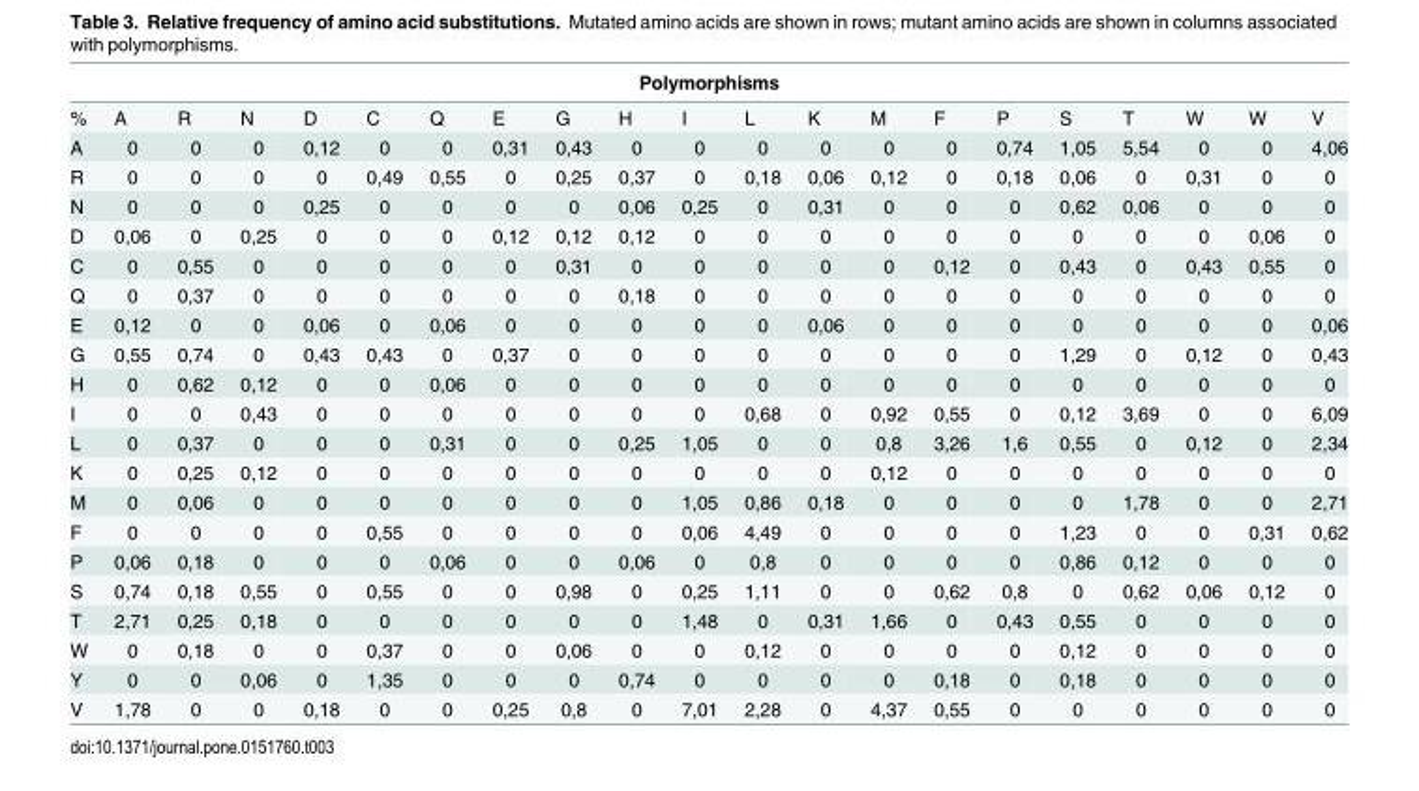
<table><thead><tr><td colspan="21">Polymorphisms</td></tr><tr><td>%</td><td>A</td><td>R</td><td>N</td><td>D</td><td>C</td><td>Q</td><td>E</td><td>G</td><td>H</td><td>I</td><td>L</td><td>K</td><td>M</td><td>F</td><td>P</td><td>S</td><td>T</td><td>W</td><td>W</td><td>V</td></tr></thead><tbody><tr><td>A</td><td>0</td><td>0</td><td>0</td><td>0,12</td><td>0</td><td>0</td><td>0,31</td><td>0,43</td><td>0</td><td>0</td><td>0</td><td>0</td><td>0</td><td>0</td><td>0,74</td><td>1,05</td><td>5,54</td><td>0</td><td>0</td><td>4,06</td></tr><tr><td>R</td><td>0</td><td>0</td><td>0</td><td>0</td><td>0,49</td><td>0,55</td><td>0</td><td>0,25</td><td>0,37</td><td>0</td><td>0,18</td><td>0,06</td><td>0,12</td><td>0</td><td>0,18</td><td>0,06</td><td>0</td><td>0,31</td><td>0</td><td>0</td></tr><tr><td>N</td><td>0</td><td>0</td><td>0</td><td>0,25</td><td>0</td><td>0</td><td>0</td><td>0</td><td>0,06</td><td>0,25</td><td>0</td><td>0,31</td><td>0</td><td>0</td><td>0</td><td>0,62</td><td>0,06</td><td>0</td><td>0</td><td>0</td></tr><tr><td>D</td><td>0,06</td><td>0</td><td>0,25</td><td>0</td><td>0</td><td>0</td><td>0,12</td><td>0,12</td><td>0,12</td><td>0</td><td>0</td><td>0</td><td>0</td><td>0</td><td>0</td><td>0</td><td>0</td><td>0</td><td>0,06</td><td>0</td></tr><tr><td>C</td><td>0</td><td>0,55</td><td>0</td><td>0</td><td>0</td><td>0</td><td>0</td><td>0,31</td><td>0</td><td>0</td><td>0</td><td>0</td><td>0</td><td>0,12</td><td>0</td><td>0,43</td><td>0</td><td>0,43</td><td>0,55</td><td>0</td></tr><tr><td>Q</td><td>0</td><td>0,37</td><td>0</td><td>0</td><td>0</td><td>0</td><td>0</td><td>0</td><td>0,18</td><td>0</td><td>0</td><td>0</td><td>0</td><td>0</td><td>0</td><td>0</td><td>0</td><td>0</td><td>0</td><td>0</td></tr><tr><td>E</td><td>0,12</td><td>0</td><td>0</td><td>0,06</td><td>0</td><td>0,06</td><td>0</td><td>0</td><td>0</td><td>0</td><td>0</td><td>0,06</td><td>0</td><td>0</td><td>0</td><td>0</td><td>0</td><td>0</td><td>0</td><td>0,06</td></tr><tr><td>G</td><td>0,55</td><td>0,74</td><td>0</td><td>0,43</td><td>0,43</td><td>0</td><td>0,37</td><td>0</td><td>0</td><td>0</td><td>0</td><td>0</td><td>0</td><td>0</td><td>0</td><td>1,29</td><td>0</td><td>0,12</td><td>0</td><td>0,43</td></tr><tr><td>H</td><td>0</td><td>0,62</td><td>0,12</td><td>0</td><td>0</td><td>0,06</td><td>0</td><td>0</td><td>0</td><td>0</td><td>0</td><td>0</td><td>0</td><td>0</td><td>0</td><td>0</td><td>0</td><td>0</td><td>0</td><td>0</td></tr><tr><td>I</td><td>0</td><td>0</td><td>0,43</td><td>0</td><td>0</td><td>0</td><td>0</td><td>0</td><td>0</td><td>0</td><td>0,68</td><td>0</td><td>0,92</td><td>0,55</td><td>0</td><td>0,12</td><td>3,69</td><td>0</td><td>0</td><td>6,09</td></tr><tr><td>L</td><td>0</td><td>0,37</td><td>0</td><td>0</td><td>0</td><td>0,31</td><td>0</td><td>0</td><td>0,25</td><td>1,05</td><td>0</td><td>0</td><td>0,8</td><td>3,26</td><td>1,6</td><td>0,55</td><td>0</td><td>0,12</td><td>0</td><td>2,34</td></tr><tr><td>K</td><td>0</td><td>0,25</td><td>0,12</td><td>0</td><td>0</td><td>0</td><td>0</td><td>0</td><td>0</td><td>0</td><td>0</td><td>0</td><td>0,12</td><td>0</td><td>0</td><td>0</td><td>0</td><td>0</td><td>0</td><td>0</td></tr><tr><td>M</td><td>0</td><td>0,06</td><td>0</td><td>0</td><td>0</td><td>0</td><td>0</td><td>0</td><td>0</td><td>1,05</td><td>0,86</td><td>0,18</td><td>0</td><td>0</td><td>0</td><td>0</td><td>1,78</td><td>0</td><td>0</td><td>2,71</td></tr><tr><td>F</td><td>0</td><td>0</td><td>0</td><td>0</td><td>0,55</td><td>0</td><td>0</td><td>0</td><td>0</td><td>0,06</td><td>4,49</td><td>0</td><td>0</td><td>0</td><td>0</td><td>1,23</td><td>0</td><td>0</td><td>0,31</td><td>0,62</td></tr><tr><td>P</td><td>0,06</td><td>0,18</td><td>0</td><td>0</td><td>0</td><td>0,06</td><td>0</td><td>0</td><td>0,06</td><td>0</td><td>0,8</td><td>0</td><td>0</td><td>0</td><td>0</td><td>0,86</td><td>0,12</td><td>0</td><td>0</td><td>0</td></tr><tr><td>S</td><td>0,74</td><td>0,18</td><td>0,55</td><td>0</td><td>0,55</td><td>0</td><td>0</td><td>0,98</td><td>0</td><td>0,25</td><td>1,11</td><td>0</td><td>0</td><td>0,62</td><td>0,8</td><td>0</td><td>0,62</td><td>0,06</td><td>0,12</td><td>0</td></tr><tr><td>T</td><td>2,71</td><td>0,25</td><td>0,18</td><td>0</td><td>0</td><td>0</td><td>0</td><td>0</td><td>0</td><td>1,48</td><td>0</td><td>0,31</td><td>1,66</td><td>0</td><td>0,43</td><td>0,55</td><td>0</td><td>0</td><td>0</td><td>0</td></tr><tr><td>W</td><td>0</td><td>0,18</td><td>0</td><td>0</td><td>0,37</td><td>0</td><td>0</td><td>0,06</td><td>0</td><td>0</td><td>0,12</td><td>0</td><td>0</td><td>0</td><td>0</td><td>0,12</td><td>0</td><td>0</td><td>0</td><td>0</td></tr><tr><td>Y</td><td>0</td><td>0</td><td>0,06</td><td>0</td><td>1,35</td><td>0</td><td>0</td><td>0</td><td>0,74</td><td>0</td><td>0</td><td>0</td><td>0</td><td>0,18</td><td>0</td><td>0,18</td><td>0</td><td>0</td><td>0</td><td>0</td></tr><tr><td>V</td><td>1,78</td><td>0</td><td>0</td><td>0,18</td><td>0</td><td>0</td><td>0,25</td><td>0,8</td><td>0</td><td>7,01</td><td>2,28</td><td>0</td><td>4,37</td><td>0,55</td><td>0</td><td>0</td><td>0</td><td>0</td><td>0</td><td>0</td></tr></tbody></table>